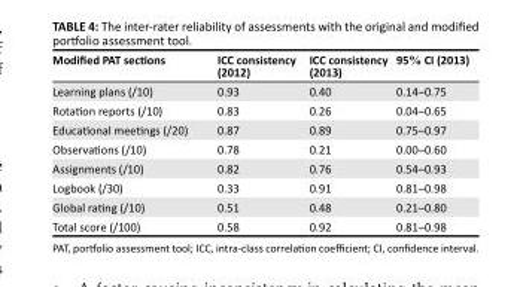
<table><thead><tr><td>Modified PAT sections</td><td>ICC consistency (2012)</td><td>ICC consistency (2013)</td><td>95% CI (2013)</td></tr></thead><tbody><tr><td>Learning plans (/10)</td><td>0.93</td><td>0.40</td><td>0.14–0.75</td></tr><tr><td>Rotation reports (/10)</td><td>0.83</td><td>0.26</td><td>0.04–0.65</td></tr><tr><td>Educational meetings (/20)</td><td>0.87</td><td>0.89</td><td>0.75–0.97</td></tr><tr><td>Observations (/10)</td><td>0.78</td><td>0.21</td><td>0.00–0.60</td></tr><tr><td>Assignments (/10)</td><td>0.82</td><td>0.76</td><td>0.54–0.93</td></tr><tr><td>Logbook (/30)</td><td>0.33</td><td>0.91</td><td>0.81–0.98</td></tr><tr><td>Global rating (/10)</td><td>0.51</td><td>0.48</td><td>0.21–0.80</td></tr><tr><td>Total score (/100)</td><td>0.58</td><td>0.92</td><td>0.81–0.98</td></tr></tbody></table>